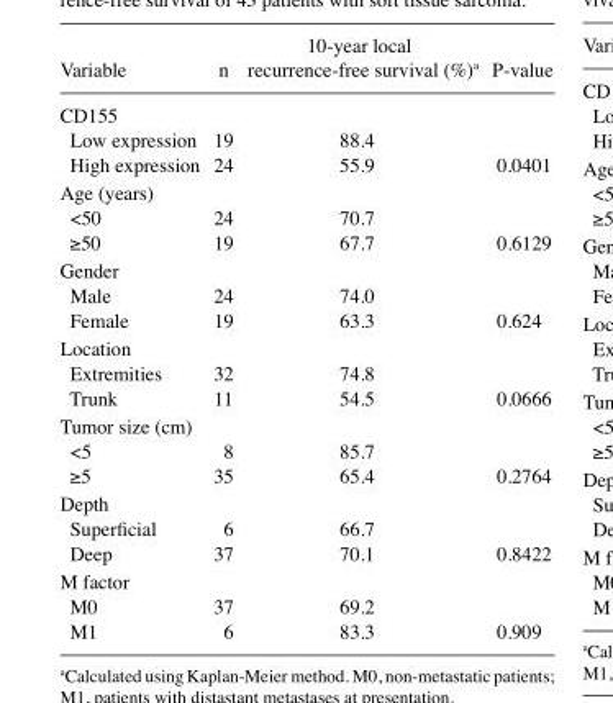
<table><thead><tr><td>Variable</td><td>n</td><td>recurrence-free survival (%)a</td><td>P-value</td></tr></thead><tbody><tr><td colspan="4">CD155</td></tr><tr><td>Low expression</td><td>19</td><td>88.4</td><td></td></tr><tr><td>High expression</td><td>24</td><td>55.9</td><td>0.0401</td></tr><tr><td colspan="4">Age (years)</td></tr><tr><td>&lt;50</td><td>24</td><td>70.7</td><td></td></tr><tr><td>≥50</td><td>19</td><td>67.7</td><td>0.6129</td></tr><tr><td colspan="4">Gender</td></tr><tr><td>Male</td><td>24</td><td>74.0</td><td></td></tr><tr><td>Female</td><td>19</td><td>63.3</td><td>0.624</td></tr><tr><td colspan="4">Location</td></tr><tr><td>Extremities</td><td>32</td><td>74.8</td><td></td></tr><tr><td>Trunk</td><td>11</td><td>54.5</td><td>0.0666</td></tr><tr><td colspan="4">Tumor size (cm)</td></tr><tr><td>&lt;5</td><td>8</td><td>85.7</td><td></td></tr><tr><td>≥5</td><td>35</td><td>65.4</td><td>0.2764</td></tr><tr><td colspan="4">Depth</td></tr><tr><td>Superficial</td><td>6</td><td>66.7</td><td></td></tr><tr><td>Deep</td><td>37</td><td>70.1</td><td>0.8422</td></tr><tr><td colspan="4">M factor</td></tr><tr><td>M0</td><td>37</td><td>69.2</td><td></td></tr><tr><td>M1</td><td>6</td><td>83.3</td><td>0.909</td></tr></tbody></table>